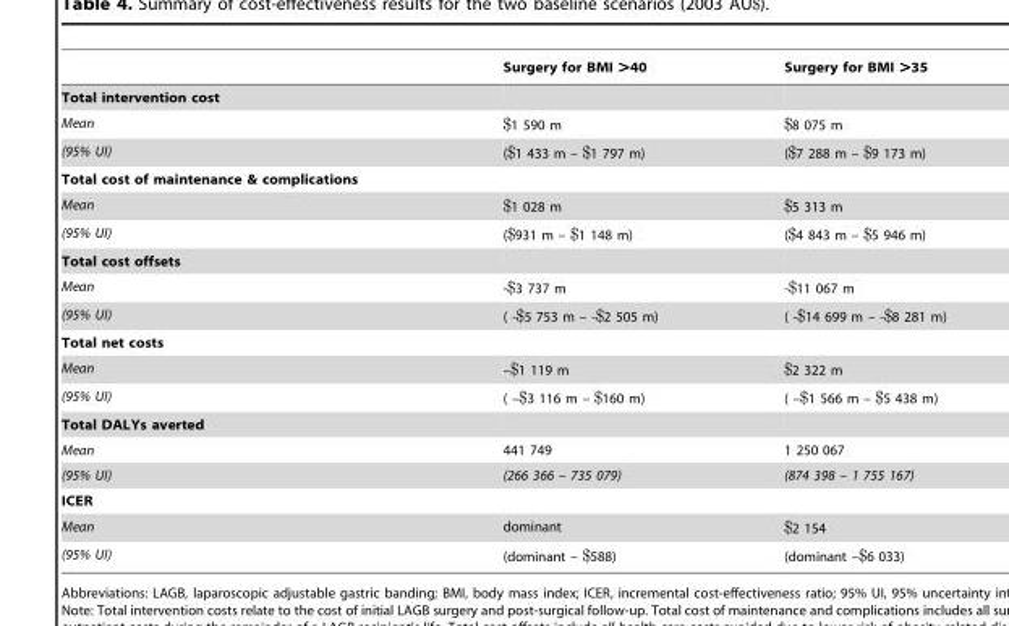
<table><thead><tr><td></td><td>Surgery for BMI &gt;40</td><td>Surgery for BMI &gt;35</td></tr></thead><tbody><tr><td colspan="3">Total intervention cost</td></tr><tr><td>Mean</td><td>$1 590 m</td><td>$8 075 m</td></tr><tr><td>(95% UI)</td><td>($1 433 m – $1 797 m)</td><td>($7 288 m – $9 173 m)</td></tr><tr><td colspan="3">Total cost of maintenance &amp; complications</td></tr><tr><td>Mean</td><td>$1 028 m</td><td>$5 313 m</td></tr><tr><td>(95% UI)</td><td>($931 m – $1 148 m)</td><td>($4 843 m – $5 946 m)</td></tr><tr><td colspan="3">Total cost offsets</td></tr><tr><td>Mean</td><td>-$3 737 m</td><td>-$11 067 m</td></tr><tr><td>(95% UI)</td><td>( -$5 753 m – -$2 505 m)</td><td>( -$14 699 m – -$8 281 m)</td></tr><tr><td colspan="3">Total net costs</td></tr><tr><td>Mean</td><td>–$1 119 m</td><td>$2 322 m</td></tr><tr><td>(95% UI)</td><td>( –$3 116 m – $160 m)</td><td>( –$1 566 m – $5 438 m)</td></tr><tr><td colspan="3">Total DALYs averted</td></tr><tr><td>Mean</td><td>441 749</td><td>1 250 067</td></tr><tr><td>(95% UI)</td><td>(266 366 – 735 079)</td><td>(874 398 – 1 755 167)</td></tr><tr><td colspan="3">ICER</td></tr><tr><td>Mean</td><td>dominant</td><td>$2 154</td></tr><tr><td>(95% UI)</td><td>(dominant – $588)</td><td>(dominant –$6 033)</td></tr></tbody></table>